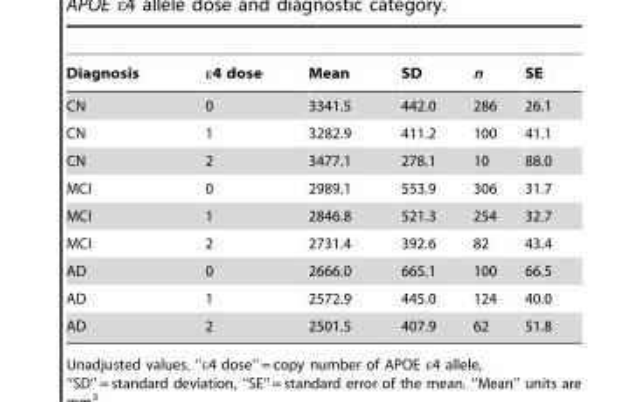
<table><thead><tr><td>Diagnosis</td><td>ε4 dose</td><td>Mean</td><td>SD</td><td>n</td><td>SE</td></tr></thead><tbody><tr><td>CN</td><td>0</td><td>3341.5</td><td>442.0</td><td>286</td><td>26.1</td></tr><tr><td>CN</td><td>1</td><td>3282.9</td><td>411.2</td><td>100</td><td>41.1</td></tr><tr><td>CN</td><td>2</td><td>3477.1</td><td>278.1</td><td>10</td><td>88.0</td></tr><tr><td>MCI</td><td>0</td><td>2989.1</td><td>553.9</td><td>306</td><td>31.7</td></tr><tr><td>MCI</td><td>1</td><td>2846.8</td><td>521.3</td><td>254</td><td>32.7</td></tr><tr><td>MCI</td><td>2</td><td>2731.4</td><td>392.6</td><td>82</td><td>43.4</td></tr><tr><td>AD</td><td>0</td><td>2666.0</td><td>665.1</td><td>100</td><td>66.5</td></tr><tr><td>AD</td><td>1</td><td>2572.9</td><td>445.0</td><td>124</td><td>40.0</td></tr><tr><td>AD</td><td>2</td><td>2501.5</td><td>407.9</td><td>62</td><td>51.8</td></tr></tbody></table>